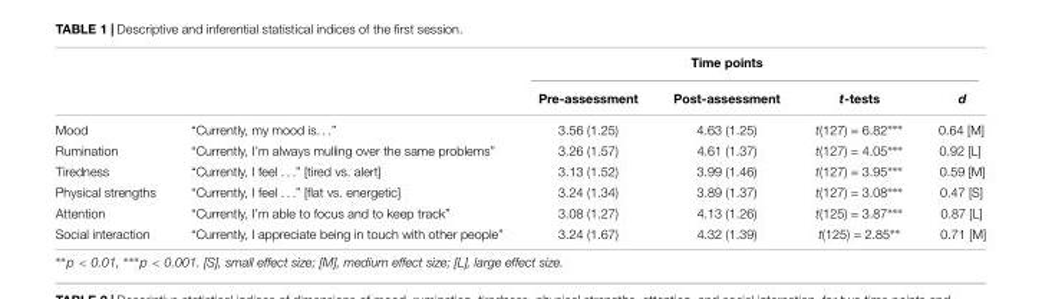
<table><thead><tr><td rowspan="2"></td><td rowspan="2"></td><td rowspan="2">Pre-assessment</td><td rowspan="2">Time points Post-assessment</td><td rowspan="2">t-tests</td><td rowspan="2">d</td></tr><tr></tr></thead><tbody><tr><td>Mood</td><td>“Currently, my mood is. . .”</td><td>3.56 (1.25)</td><td>4.63 (1.25)</td><td>t(127) = 6.82∗∗∗</td><td>0.64 [M]</td></tr><tr><td>Rumination</td><td>“Currently, I’m always mulling over the same problems”</td><td>3.26 (1.57)</td><td>4.61 (1.37)</td><td>t(127) = 4.05∗∗∗</td><td>0.92 [L]</td></tr><tr><td>Tiredness</td><td>“Currently, I feel . . .” [tired vs. alert]</td><td>3.13 (1.52)</td><td>3.99 (1.46)</td><td>t(127) = 3.95∗∗∗</td><td>0.59 [M]</td></tr><tr><td>Physical strengths</td><td>“Currently, I feel . . .” [flat vs. energetic]</td><td>3.24 (1.34)</td><td>3.89 (1.37)</td><td>t(127) = 3.08∗∗∗</td><td>0.47 [S]</td></tr><tr><td>Attention</td><td>“Currently, I’m able to focus and to keep track”</td><td>3.08 (1.27)</td><td>4.13 (1.26)</td><td>t(125) = 3.87∗∗∗</td><td>0.87 [L]</td></tr><tr><td>Social interaction</td><td>“Currently, I appreciate being in touch with other people”</td><td>3.24 (1.67)</td><td>4.32 (1.39)</td><td>t(125) = 2.85∗∗</td><td>0.71 [M]</td></tr></tbody></table>